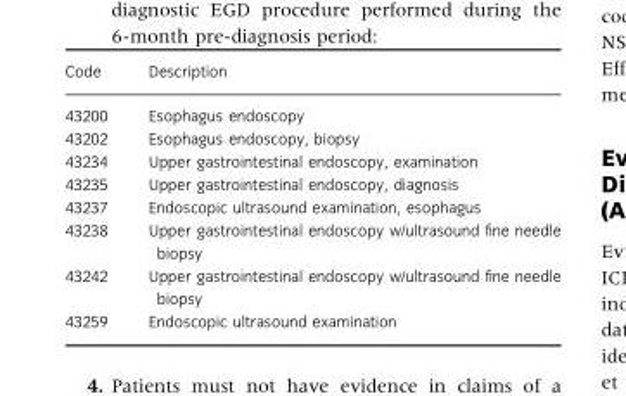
<table><thead><tr><td>Code</td><td>Description</td></tr></thead><tbody><tr><td>43200</td><td>Esophagus endoscopy</td></tr><tr><td>43202</td><td>Esophagus endoscopy, biopsy</td></tr><tr><td>43234</td><td>Upper gastrointestinal endoscopy, examination</td></tr><tr><td>43235</td><td>Upper gastrointestinal endoscopy, diagnosis</td></tr><tr><td>43237</td><td>Endoscopic ultrasound examination, esophagus</td></tr><tr><td>43238</td><td>Upper gastrointestinal endoscopy w/ultrasound fine needle biopsy</td></tr><tr><td>43242</td><td>Upper gastrointestinal endoscopy w/ultrasound fine needle biopsy</td></tr><tr><td>43259</td><td>Endoscopic ultrasound examination</td></tr></tbody></table>